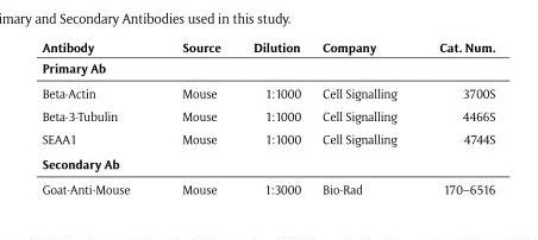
<table><thead><tr><td>Antibody</td><td>Source</td><td>Dilution</td><td>Company</td><td>Cat. Num.</td></tr></thead><tbody><tr><td colspan="5">Primary Ab</td></tr><tr><td>Beta-Actin</td><td>Mouse</td><td>1:1000</td><td>Cell Signalling</td><td>3700S</td></tr><tr><td>Beta-3-Tubulin</td><td>Mouse</td><td>1:1000</td><td>Cell Signalling</td><td>4466S</td></tr><tr><td>SEAA1</td><td>Mouse</td><td>1:1000</td><td>Cell Signalling</td><td>4744S</td></tr><tr><td colspan="5">Secondary Ab</td></tr><tr><td>Goat-Anti-Mouse</td><td>Mouse</td><td>1:3000</td><td>Bio-Rad</td><td>170–6516</td></tr></tbody></table>